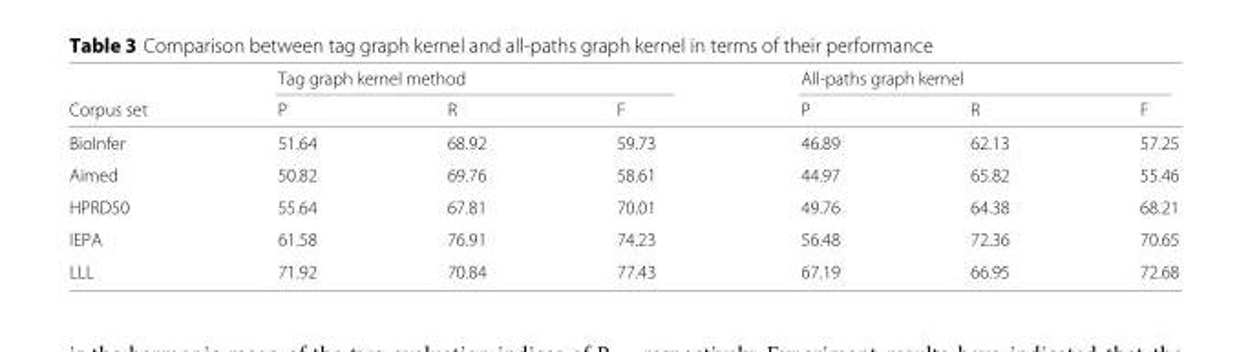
<table><thead><tr><td rowspan="2">Corpus set</td><td colspan="3">Tag graph kernel method</td><td colspan="3">All-paths graph kernel</td></tr><tr><td>P</td><td>R</td><td>F</td><td>P</td><td>R</td><td>F</td></tr></thead><tbody><tr><td>BioInfer</td><td>51.64</td><td>68.92</td><td>59.73</td><td>46.89</td><td>62.13</td><td>57.25</td></tr><tr><td>Aimed</td><td>50.82</td><td>69.76</td><td>58.61</td><td>44.97</td><td>65.82</td><td>55.46</td></tr><tr><td>HPRD50</td><td>55.64</td><td>67.81</td><td>70.01</td><td>49.76</td><td>64.38</td><td>68.21</td></tr><tr><td>IEPA</td><td>61.58</td><td>76.91</td><td>74.23</td><td>56.48</td><td>72.36</td><td>70.65</td></tr><tr><td>LLL</td><td>71.92</td><td>70.84</td><td>77.43</td><td>67.19</td><td>66.95</td><td>72.68</td></tr></tbody></table>